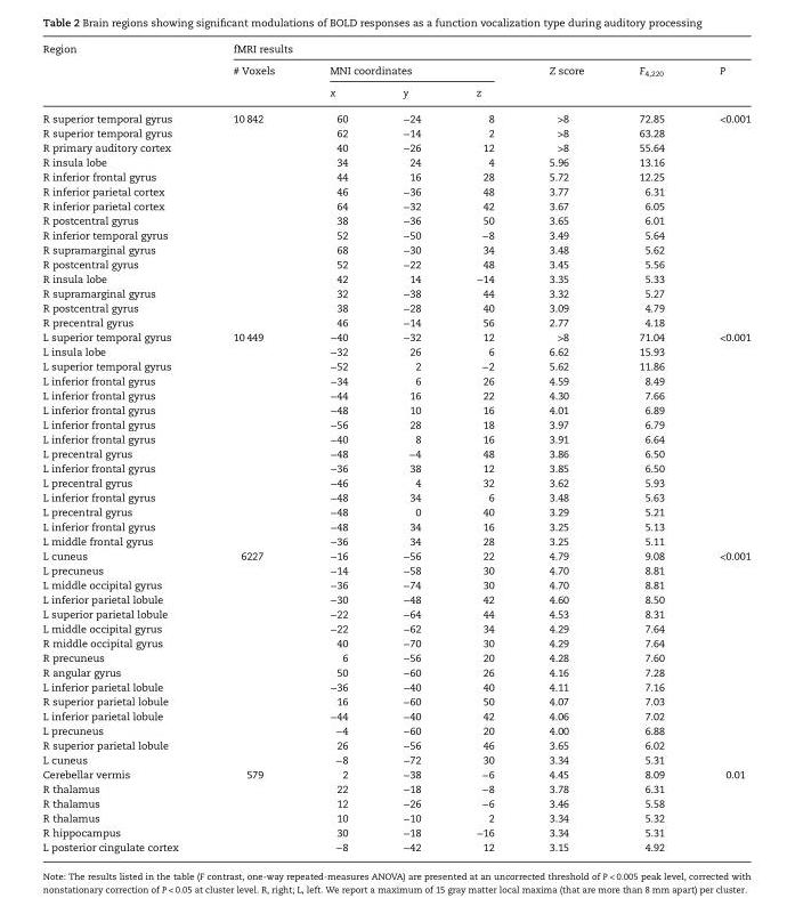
<table><thead><tr><td rowspan="3">Region</td><td colspan="7">fMRI results</td></tr><tr><td rowspan="2"># Voxels</td><td colspan="3">MNI coordinates</td><td rowspan="2">Z score</td><td rowspan="2">F<sub>4,220</sub></td><td rowspan="2">P</td></tr><tr><td>x</td><td>y</td><td>z</td></tr></thead><tbody><tr><td>R superior temporal gyrus</td><td>10 842</td><td>60</td><td>−24</td><td>8</td><td>&gt;8</td><td>72.85</td><td>&lt;0.001</td></tr><tr><td>R superior temporal gyrus</td><td></td><td>62</td><td>−14</td><td>2</td><td>&gt;8</td><td>63.28</td><td></td></tr><tr><td>R primary auditory cortex</td><td></td><td>40</td><td>−26</td><td>12</td><td>&gt;8</td><td>55.64</td><td></td></tr><tr><td>R insula lobe</td><td></td><td>34</td><td>24</td><td>4</td><td>5.96</td><td>13.16</td><td></td></tr><tr><td>R inferior frontal gyrus</td><td></td><td>44</td><td>16</td><td>28</td><td>5.72</td><td>12.25</td><td></td></tr><tr><td>R inferior parietal cortex</td><td></td><td>46</td><td>−36</td><td>48</td><td>3.77</td><td>6.31</td><td></td></tr><tr><td>R inferior parietal cortex</td><td></td><td>64</td><td>−32</td><td>42</td><td>3.67</td><td>6.05</td><td></td></tr><tr><td>R postcentral gyrus</td><td></td><td>38</td><td>−36</td><td>50</td><td>3.65</td><td>6.01</td><td></td></tr><tr><td>R inferior temporal gyrus</td><td></td><td>52</td><td>−50</td><td>−8</td><td>3.49</td><td>5.64</td><td></td></tr><tr><td>R supramarginal gyrus</td><td></td><td>68</td><td>−30</td><td>34</td><td>3.48</td><td>5.62</td><td></td></tr><tr><td>R postcentral gyrus</td><td></td><td>52</td><td>−22</td><td>48</td><td>3.45</td><td>5.56</td><td></td></tr><tr><td>R insula lobe</td><td></td><td>42</td><td>14</td><td>−14</td><td>3.35</td><td>5.33</td><td></td></tr><tr><td>R supramarginal gyrus</td><td></td><td>32</td><td>−38</td><td>44</td><td>3.32</td><td>5.27</td><td></td></tr><tr><td>R postcentral gyrus</td><td></td><td>38</td><td>−28</td><td>40</td><td>3.09</td><td>4.79</td><td></td></tr><tr><td>R precentral gyrus</td><td></td><td>46</td><td>−14</td><td>56</td><td>2.77</td><td>4.18</td><td></td></tr><tr><td>L superior temporal gyrus</td><td>10 449</td><td>−40</td><td>−32</td><td>12</td><td>&gt;8</td><td>71.04</td><td>&lt;0.001</td></tr><tr><td>L insula lobe</td><td></td><td>−32</td><td>26</td><td>6</td><td>6.62</td><td>15.93</td><td></td></tr><tr><td>L superior temporal gyrus</td><td></td><td>−52</td><td>2</td><td>−2</td><td>5.62</td><td>11.86</td><td></td></tr><tr><td>L inferior frontal gyrus</td><td></td><td>−34</td><td>6</td><td>26</td><td>4.59</td><td>8.49</td><td></td></tr><tr><td>L inferior frontal gyrus</td><td></td><td>−44</td><td>16</td><td>22</td><td>4.30</td><td>7.66</td><td></td></tr><tr><td>L inferior frontal gyrus</td><td></td><td>−48</td><td>10</td><td>16</td><td>4.01</td><td>6.89</td><td></td></tr><tr><td>L inferior frontal gyrus</td><td></td><td>−56</td><td>28</td><td>18</td><td>3.97</td><td>6.79</td><td></td></tr><tr><td>L inferior frontal gyrus</td><td></td><td>−40</td><td>8</td><td>16</td><td>3.91</td><td>6.64</td><td></td></tr><tr><td>L precentral gyrus</td><td></td><td>−48</td><td>−4</td><td>48</td><td>3.86</td><td>6.50</td><td></td></tr><tr><td>L inferior frontal gyrus</td><td></td><td>−36</td><td>38</td><td>12</td><td>3.85</td><td>6.50</td><td></td></tr><tr><td>L precentral gyrus</td><td></td><td>−46</td><td>4</td><td>32</td><td>3.62</td><td>5.93</td><td></td></tr><tr><td>L inferior frontal gyrus</td><td></td><td>−48</td><td>34</td><td>6</td><td>3.48</td><td>5.63</td><td></td></tr><tr><td>L precentral gyrus</td><td></td><td>−48</td><td>0</td><td>40</td><td>3.29</td><td>5.21</td><td></td></tr><tr><td>L inferior frontal gyrus</td><td></td><td>−48</td><td>34</td><td>16</td><td>3.25</td><td>5.13</td><td></td></tr><tr><td>L middle frontal gyrus</td><td></td><td>−36</td><td>34</td><td>28</td><td>3.25</td><td>5.11</td><td></td></tr><tr><td>L cuneus</td><td>6227</td><td>−16</td><td>−56</td><td>22</td><td>4.79</td><td>9.08</td><td>&lt;0.001</td></tr><tr><td>L precuneus</td><td></td><td>−14</td><td>−58</td><td>30</td><td>4.70</td><td>8.81</td><td></td></tr><tr><td>L middle occipital gyrus</td><td></td><td>−36</td><td>−74</td><td>30</td><td>4.70</td><td>8.81</td><td></td></tr><tr><td>L inferior parietal lobule</td><td></td><td>−30</td><td>−48</td><td>42</td><td>4.60</td><td>8.50</td><td></td></tr><tr><td>L superior parietal lobule</td><td></td><td>−22</td><td>−64</td><td>44</td><td>4.53</td><td>8.31</td><td></td></tr><tr><td>L middle occipital gyrus</td><td></td><td>−22</td><td>−62</td><td>34</td><td>4.29</td><td>7.64</td><td></td></tr><tr><td>R middle occipital gyrus</td><td></td><td>40</td><td>−70</td><td>30</td><td>4.29</td><td>7.64</td><td></td></tr><tr><td>R precuneus</td><td></td><td>6</td><td>−56</td><td>20</td><td>4.28</td><td>7.60</td><td></td></tr><tr><td>R angular gyrus</td><td></td><td>50</td><td>−60</td><td>26</td><td>4.16</td><td>7.28</td><td></td></tr><tr><td>L inferior parietal lobule</td><td></td><td>−36</td><td>−40</td><td>40</td><td>4.11</td><td>7.16</td><td></td></tr><tr><td>R superior parietal lobule</td><td></td><td>16</td><td>−60</td><td>50</td><td>4.07</td><td>7.03</td><td></td></tr><tr><td>L inferior parietal lobule</td><td></td><td>−44</td><td>−40</td><td>42</td><td>4.06</td><td>7.02</td><td></td></tr><tr><td>L precuneus</td><td></td><td>−4</td><td>−60</td><td>20</td><td>4.00</td><td>6.88</td><td></td></tr><tr><td>R superior parietal lobule</td><td></td><td>26</td><td>−56</td><td>46</td><td>3.65</td><td>6.02</td><td></td></tr><tr><td>L cuneus</td><td></td><td>−8</td><td>−72</td><td>30</td><td>3.34</td><td>5.31</td><td></td></tr><tr><td>Cerebellar vermis</td><td>579</td><td>2</td><td>−38</td><td>−6</td><td>4.45</td><td>8.09</td><td>0.01</td></tr><tr><td>R thalamus</td><td></td><td>22</td><td>−18</td><td>−8</td><td>3.78</td><td>6.31</td><td></td></tr><tr><td>R thalamus</td><td></td><td>12</td><td>−26</td><td>−6</td><td>3.46</td><td>5.58</td><td></td></tr><tr><td>R thalamus</td><td></td><td>10</td><td>−10</td><td>2</td><td>3.34</td><td>5.32</td><td></td></tr><tr><td>R hippocampus</td><td></td><td>30</td><td>−18</td><td>−16</td><td>3.34</td><td>5.31</td><td></td></tr><tr><td>L posterior cingulate cortex</td><td></td><td>−8</td><td>−42</td><td>12</td><td>3.15</td><td>4.92</td><td></td></tr></tbody></table>